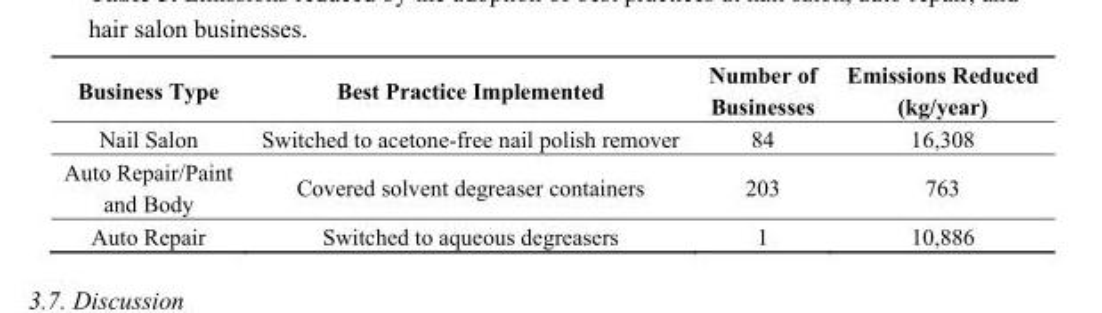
<table><thead><tr><td>Business Type</td><td>Best Practice Implemented</td><td>Number of Businesses</td><td>Emissions Reduced (kg/year)</td></tr></thead><tbody><tr><td>Nail Salon</td><td>Switched to acetone-free nail polish remover</td><td>84</td><td>16,308</td></tr><tr><td>Auto Repair/Paint and Body</td><td>Covered solvent degreaser containers</td><td>203</td><td>763</td></tr><tr><td>Auto Repair</td><td>Switched to aqueous degreasers</td><td>1</td><td>10,886</td></tr></tbody></table>